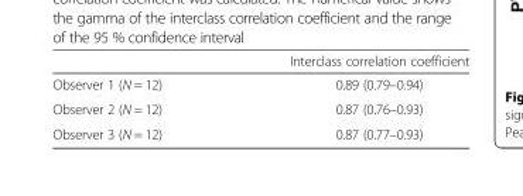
<table><thead><tr><td></td><td>Interclass correlation coefficient</td></tr></thead><tbody><tr><td>Observer 1 (N = 12)</td><td>0.89 (0.79–0.94)</td></tr><tr><td>Observer 2 (N = 12)</td><td>0.87 (0.76–0.93)</td></tr><tr><td>Observer 3 (N = 12)</td><td>0.87 (0.77–0.93)</td></tr></tbody></table>